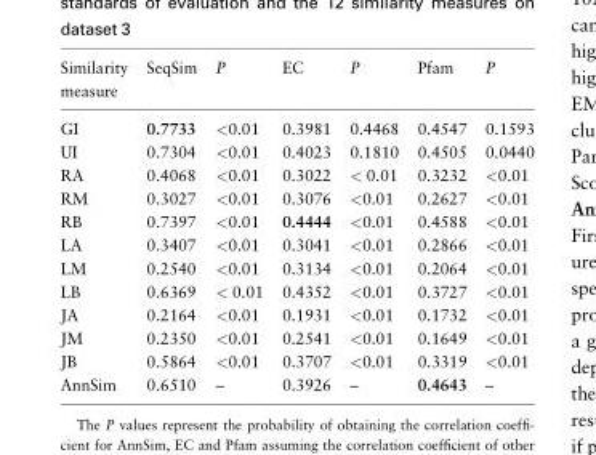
<table><thead><tr><td>Similarity measure</td><td>SeqSim</td><td>P</td><td>EC</td><td>P</td><td>Pfam</td><td>P</td></tr></thead><tbody><tr><td>GI</td><td>0.7733</td><td>&lt;0.01</td><td>0.3981</td><td>0.4468</td><td>0.4547</td><td>0.1593</td></tr><tr><td>UI</td><td>0.7304</td><td>&lt;0.01</td><td>0.4023</td><td>0.1810</td><td>0.4505</td><td>0.0440</td></tr><tr><td>RA</td><td>0.4068</td><td>&lt;0.01</td><td>0.3022</td><td>&lt; 0.01</td><td>0.3232</td><td>&lt;0.01</td></tr><tr><td>RM</td><td>0.3027</td><td>&lt;0.01</td><td>0.3076</td><td>&lt;0.01</td><td>0.2627</td><td>&lt;0.01</td></tr><tr><td>RB</td><td>0.7397</td><td>&lt;0.01</td><td>0.4444</td><td>&lt;0.01</td><td>0.4588</td><td>&lt;0.01</td></tr><tr><td>LA</td><td>0.3407</td><td>&lt;0.01</td><td>0.3041</td><td>&lt;0.01</td><td>0.2866</td><td>&lt;0.01</td></tr><tr><td>LM</td><td>0.2540</td><td>&lt;0.01</td><td>0.3134</td><td>&lt;0.01</td><td>0.2064</td><td>&lt;0.01</td></tr><tr><td>LB</td><td>0.6369</td><td>&lt; 0.01</td><td>0.4352</td><td>&lt;0.01</td><td>0.3727</td><td>&lt;0.01</td></tr><tr><td>JA</td><td>0.2164</td><td>&lt;0.01</td><td>0.1931</td><td>&lt;0.01</td><td>0.1732</td><td>&lt;0.01</td></tr><tr><td>JM</td><td>0.2350</td><td>&lt;0.01</td><td>0.2541</td><td>&lt;0.01</td><td>0.1649</td><td>&lt;0.01</td></tr><tr><td>JB</td><td>0.5864</td><td>&lt;0.01</td><td>0.3707</td><td>&lt;0.01</td><td>0.3319</td><td>&lt;0.01</td></tr><tr><td>AnnSim</td><td>0.6510</td><td>–</td><td>0.3926</td><td>–</td><td>0.4643</td><td>–</td></tr></tbody></table>